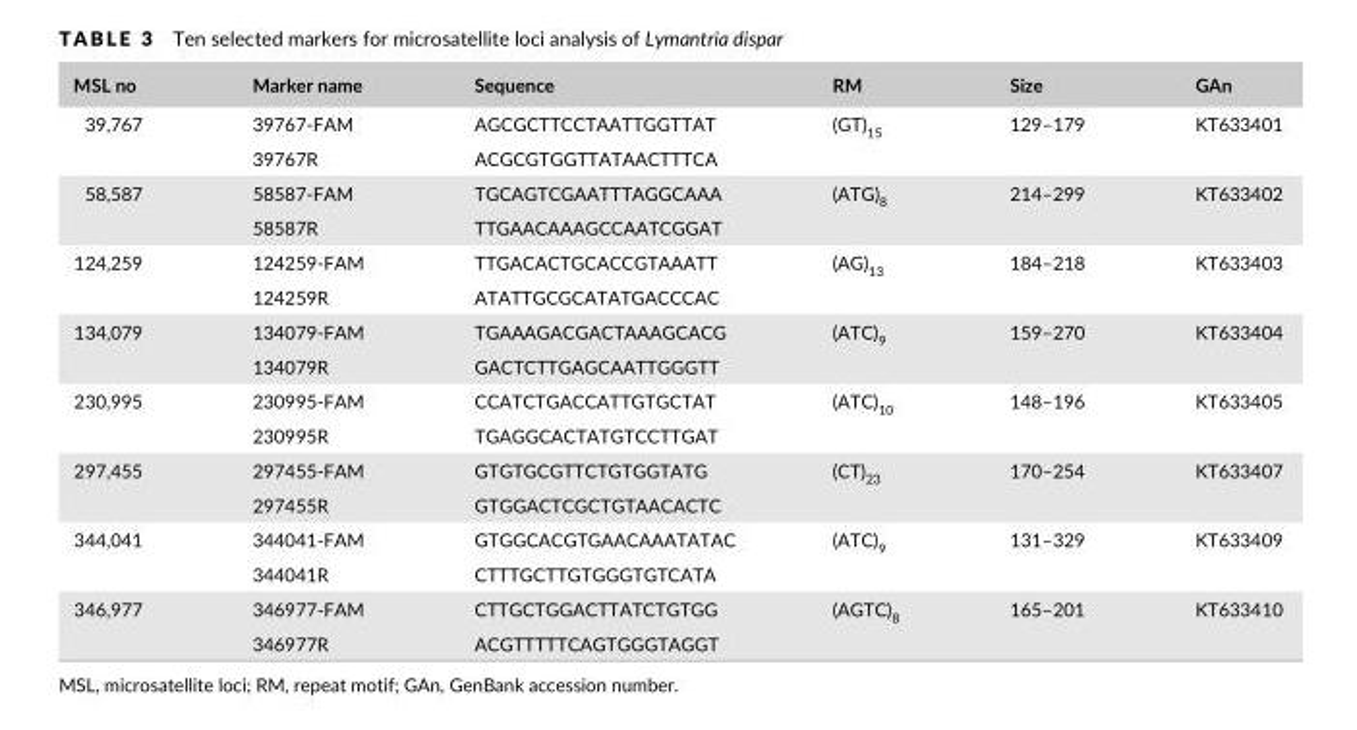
<table><thead><tr><td>MSL no</td><td>Marker name</td><td>Sequence</td><td>RM</td><td>Size</td><td>GAn</td></tr></thead><tbody><tr><td rowspan="2">39,767</td><td>39767- FAM</td><td>AGCGCTTCCTAATTGGTTAT</td><td rowspan="2">(GT)<sub>15</sub></td><td rowspan="2">129–179</td><td rowspan="2">KT633401</td></tr><tr><td>39767R</td><td>ACGCGTGGTTATAACTTTCA</td></tr><tr><td rowspan="2">58,587</td><td>58587- FAM</td><td>TGCAGTCGAATTTAGGCAAA</td><td rowspan="2">(ATG)<sub>8</sub></td><td rowspan="2">214–299</td><td rowspan="2">KT633402</td></tr><tr><td>58587R</td><td>TTGAACAAAGCCAATCGGAT</td></tr><tr><td rowspan="2">124,259</td><td>124259- FAM</td><td>TTGACACTGCACCGTAAATT</td><td rowspan="2">(AG)<sub>13</sub></td><td rowspan="2">184–218</td><td rowspan="2">KT633403</td></tr><tr><td>124259R</td><td>ATATTGCGCATATGACCCAC</td></tr><tr><td rowspan="2">134,079</td><td>134079- FAM</td><td>TGAAAGACGACTAAAGCACG</td><td rowspan="2">(ATC)<sub>9</sub></td><td rowspan="2">159–270</td><td rowspan="2">KT633404</td></tr><tr><td>134079R</td><td>GACTCTTGAGCAATTGGGTT</td></tr><tr><td rowspan="2">230,995</td><td>230995- FAM</td><td>CCATCTGACCATTGTGCTAT</td><td rowspan="2">(ATC)<sub>10</sub></td><td rowspan="2">148–196</td><td rowspan="2">KT633405</td></tr><tr><td>230995R</td><td>TGAGGCACTATGTCCTTGAT</td></tr><tr><td rowspan="2">297,455</td><td>297455- FAM</td><td>GTGTGCGTTCTGTGGTATG</td><td rowspan="2">(CT)<sub>23</sub></td><td rowspan="2">170–254</td><td rowspan="2">KT633407</td></tr><tr><td>297455R</td><td>GTGGACTCGCTGTAACACTC</td></tr><tr><td rowspan="2">344,041</td><td>344041- FAM</td><td>GTGGCACGTGAACAAATATAC</td><td rowspan="2">(ATC)<sub>9</sub></td><td rowspan="2">131–329</td><td rowspan="2">KT633409</td></tr><tr><td>344041R</td><td>CTTTGCTTGTGGGTGTCATA</td></tr><tr><td rowspan="2">346,977</td><td>346977- FAM</td><td>CTTGCTGGACTTATCTGTGG</td><td rowspan="2">(AGTC)<sub>8</sub></td><td rowspan="2">165–201</td><td rowspan="2">KT633410</td></tr><tr><td>346977R</td><td>ACGTTTTTCAGTGGGTAGGT</td></tr></tbody></table>